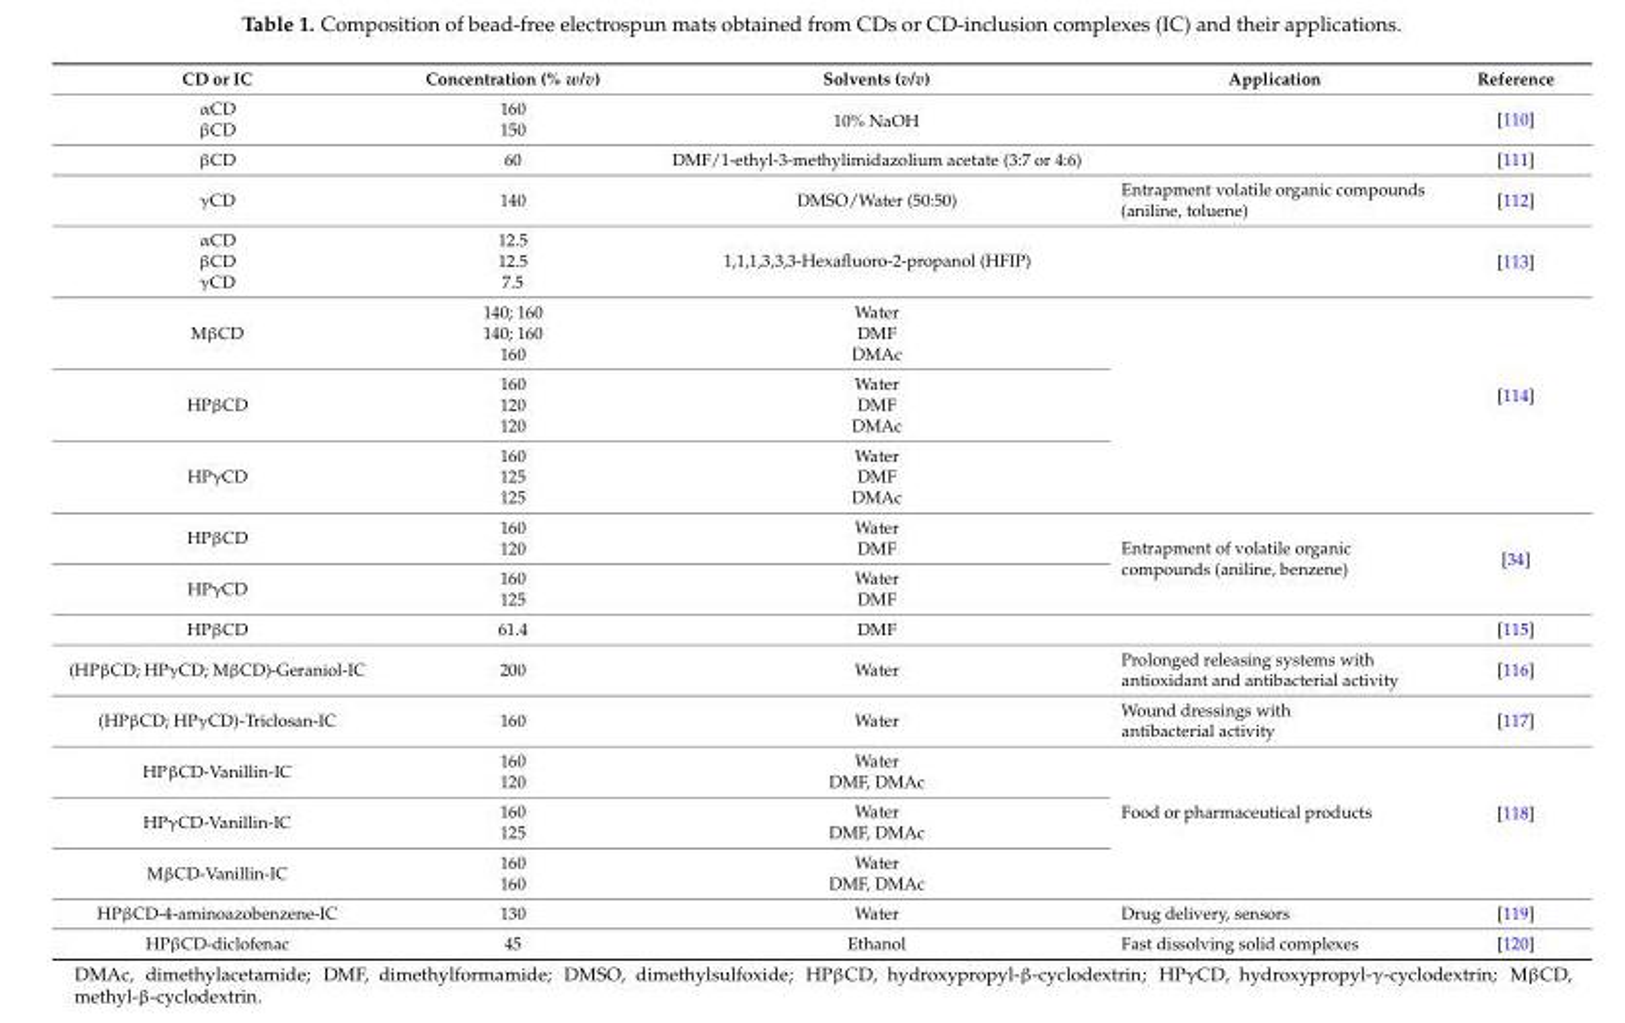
<table><thead><tr><td>CD or IC</td><td>Concentration (% w/v)</td><td>Solvents (v/v)</td><td>Application</td><td>Reference</td></tr></thead><tbody><tr><td>αCD</td><td>160</td><td rowspan="2">10% NaOH</td><td></td><td rowspan="2">[110]</td></tr><tr><td>βCD</td><td>150</td><td></td></tr><tr><td>βCD</td><td>60</td><td>DMF/1-ethyl-3-methylimidazolium acetate (3:7 or 4:6)</td><td></td><td>[111]</td></tr><tr><td>γCD</td><td>140</td><td>DMSO/Water (50:50)</td><td>Entrapment volatile organic compounds (aniline, toluene)</td><td>[112]</td></tr><tr><td>αCD</td><td>12.5</td><td rowspan="3">1,1,1,3,3,3-Hexafluoro-2-propanol (HFIP)</td><td rowspan="3"></td><td rowspan="3">[113]</td></tr><tr><td>βCD</td><td>12.5</td></tr><tr><td>γCD</td><td>7.5</td></tr><tr><td rowspan="3">MβCD</td><td>140; 160</td><td>Water</td><td rowspan="9"></td><td rowspan="9">[114]</td></tr><tr><td>140; 160</td><td>DMF</td></tr><tr><td>160</td><td>DMAc</td></tr><tr><td rowspan="3">HPβCD</td><td>160</td><td>Water</td></tr><tr><td>120</td><td>DMF</td></tr><tr><td>120</td><td>DMAc</td></tr><tr><td rowspan="3">HPγCD</td><td>160</td><td>Water</td></tr><tr><td>125</td><td>DMF</td></tr><tr><td>125</td><td>DMAc</td></tr><tr><td rowspan="2">HPβCD</td><td>160</td><td>Water</td><td rowspan="4">Entrapment of volatile organic compounds (aniline, benzene)</td><td rowspan="4">[34]</td></tr><tr><td>120</td><td>DMF</td></tr><tr><td rowspan="2">HPγCD</td><td>160</td><td>Water</td></tr><tr><td>125</td><td>DMF</td></tr><tr><td>HPβCD</td><td>61.4</td><td>DMF</td><td></td><td>[115]</td></tr><tr><td>(HPβCD; HPγCD; MβCD)-Geraniol-IC</td><td>200</td><td>Water</td><td>Prolonged releasing systems with antioxidant and antibacterial activity</td><td>[116]</td></tr><tr><td>(HPβCD; HPγCD)-Triclosan-IC</td><td>160</td><td>Water</td><td>Wound dressings with antibacterial activity</td><td>[117]</td></tr><tr><td rowspan="2">HPβCD-Vanillin-IC</td><td>160</td><td>Water</td><td rowspan="6">Food or pharmaceutical products</td><td rowspan="6">[118]</td></tr><tr><td>120</td><td>DMF, DMAc</td></tr><tr><td rowspan="2">HPγCD-Vanillin-IC</td><td>160</td><td>Water</td></tr><tr><td>125</td><td>DMF, DMAc</td></tr><tr><td rowspan="2">MβCD-Vanillin-IC</td><td>160</td><td>Water</td></tr><tr><td>160</td><td>DMF, DMAc</td></tr><tr><td>HPβCD-4-aminoazobenzene-IC</td><td>130</td><td>Water</td><td>Drug delivery, sensors</td><td>[119]</td></tr><tr><td>HPβCD-diclofenac</td><td>45</td><td>Ethanol</td><td>Fast dissolving solid complexes</td><td>[120]</td></tr></tbody></table>